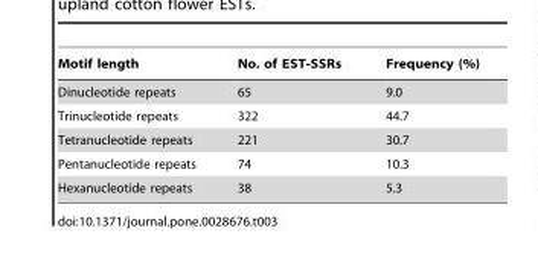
<table><thead><tr><td>Motif length</td><td>No. of EST-SSRs</td><td>Frequency (%)</td></tr></thead><tbody><tr><td>Dinucleotide repeats</td><td>65</td><td>9.0</td></tr><tr><td>Trinucleotide repeats</td><td>322</td><td>44.7</td></tr><tr><td>Tetranucleotide repeats</td><td>221</td><td>30.7</td></tr><tr><td>Pentanucleotide repeats</td><td>74</td><td>10.3</td></tr><tr><td>Hexanucleotide repeats</td><td>38</td><td>5.3</td></tr></tbody></table>